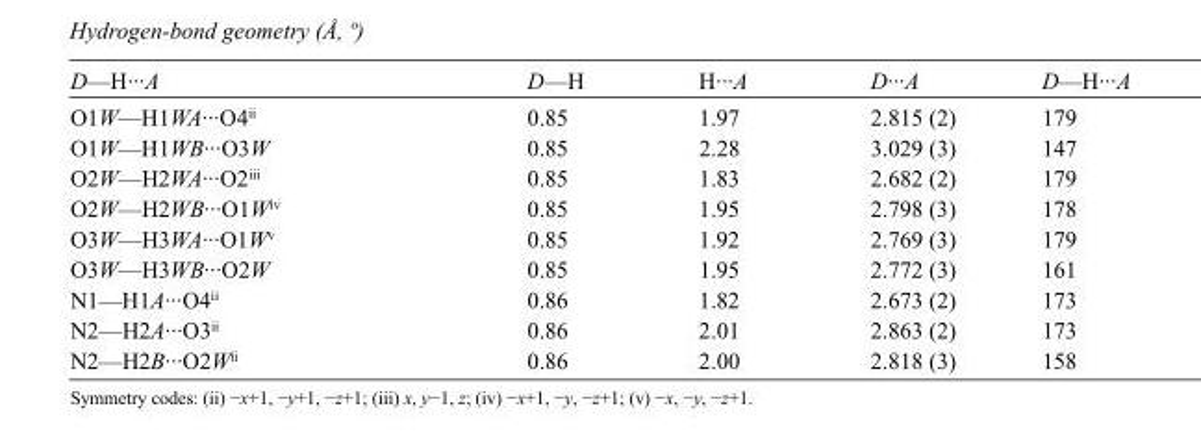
<table><tbody><tr><td>D—H···A</td><td>D—H</td><td>H···A</td><td>D···A</td><td>D—H···A</td></tr><tr><td>O1W—H1WA···O4<sup>ii</sup></td><td>0.85</td><td>1.97</td><td>2.815 (2)</td><td>179</td></tr><tr><td>O1W—H1WB···O3W</td><td>0.85</td><td>2.28</td><td>3.029 (3)</td><td>147</td></tr><tr><td>O2W—H2WA···O2<sup>iii</sup></td><td>0.85</td><td>1.83</td><td>2.682 (2)</td><td>179</td></tr><tr><td>O2W—H2WB···O1W<sup>iv</sup></td><td>0.85</td><td>1.95</td><td>2.798 (3)</td><td>178</td></tr><tr><td>O3W—H3WA···O1W<sup>v</sup></td><td>0.85</td><td>1.92</td><td>2.769 (3)</td><td>179</td></tr><tr><td>O3W—H3WB···O2W</td><td>0.85</td><td>1.95</td><td>2.772 (3)</td><td>161</td></tr><tr><td>N1—H1A···O4<sup>ii</sup></td><td>0.86</td><td>1.82</td><td>2.673 (2)</td><td>173</td></tr><tr><td>N2—H2A···O3<sup>ii</sup></td><td>0.86</td><td>2.01</td><td>2.863 (2)</td><td>173</td></tr><tr><td>N2—H2B···O2W<sup>ii</sup></td><td>0.86</td><td>2.00</td><td>2.818 (3)</td><td>158</td></tr></tbody></table>